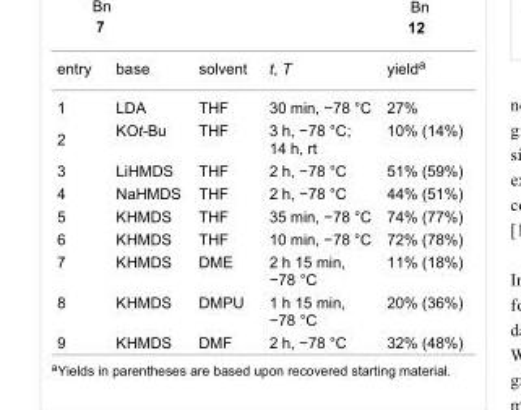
<table><tbody><tr><td>entry</td><td>base</td><td>solvent</td><td>t, T</td><td>yield<sup>a</sup></td></tr><tr><td>1</td><td>LDA</td><td>THF</td><td>30 min, −78 °C</td><td>27%</td></tr><tr><td>2</td><td>KOt-Bu</td><td>THF</td><td>3 h, −78 °C; 14 h, rt</td><td>10% (14%)</td></tr><tr><td>3</td><td>LiHMDS</td><td>THF</td><td>2 h, −78 °C</td><td>51% (59%)</td></tr><tr><td>4</td><td>NaHMDS</td><td>THF</td><td>2 h, −78 °C</td><td>44% (51%)</td></tr><tr><td>5</td><td>KHMDS</td><td>THF</td><td>35 min, −78 °C</td><td>74% (77%)</td></tr><tr><td>6</td><td>KHMDS</td><td>THF</td><td>10 min, −78 °C</td><td>72% (78%)</td></tr><tr><td>7</td><td>KHMDS</td><td>DME</td><td>2 h 15 min, −78 °C</td><td>11% (18%)</td></tr><tr><td>8</td><td>KHMDS</td><td>DMPU</td><td>1 h 15 min, −78 °C</td><td>20% (36%)</td></tr><tr><td>9</td><td>KHMDS</td><td>DMF</td><td>2 h, −78 °C</td><td>32% (48%)</td></tr></tbody></table>